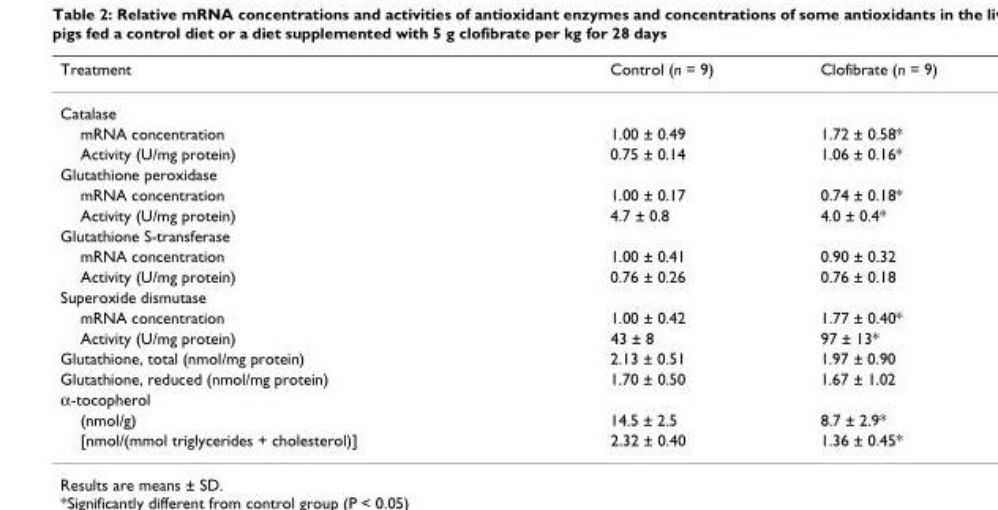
<table><thead><tr><td>Treatment</td><td>Control (n = 9)</td><td>Clofibrate (n = 9)</td></tr></thead><tbody><tr><td colspan="3">Catalase</td></tr><tr><td>mRNA concentration</td><td>1.00 ± 0.49</td><td>1.72 ± 0.58*</td></tr><tr><td>Activity (U/mg protein)</td><td>0.75 ± 0.14</td><td>1.06 ± 0.16*</td></tr><tr><td colspan="3">Glutathione peroxidase</td></tr><tr><td>mRNA concentration</td><td>1.00 ± 0.17</td><td>0.74 ± 0.18*</td></tr><tr><td>Activity (U/mg protein)</td><td>4.7 ± 0.8</td><td>4.0 ± 0.4*</td></tr><tr><td colspan="3">Glutathione S-transferase</td></tr><tr><td>mRNA concentration</td><td>1.00 ± 0.41</td><td>0.90 ± 0.32</td></tr><tr><td>Activity (U/mg protein)</td><td>0.76 ± 0.26</td><td>0.76 ± 0.18</td></tr><tr><td colspan="3">Superoxide dismutase</td></tr><tr><td>mRNA concentration</td><td>1.00 ± 0.42</td><td>1.77 ± 0.40*</td></tr><tr><td>Activity (U/mg protein)</td><td>43 ± 8</td><td>97 ± 13*</td></tr><tr><td>Glutathione, total (nmol/mg protein)</td><td>2.13 ± 0.51</td><td>1.97 ± 0.90</td></tr><tr><td>Glutathione, reduced (nmol/mg protein)</td><td>1.70 ± 0.50</td><td>1.67 ± 1.02</td></tr><tr><td colspan="3">α-tocopherol</td></tr><tr><td>(nmol/g)</td><td>14.5 ± 2.5</td><td>8.7 ± 2.9*</td></tr><tr><td>[nmol/(mmol triglycerides + cholesterol)]</td><td>2.32 ± 0.40</td><td>1.36 ± 0.45*</td></tr></tbody></table>